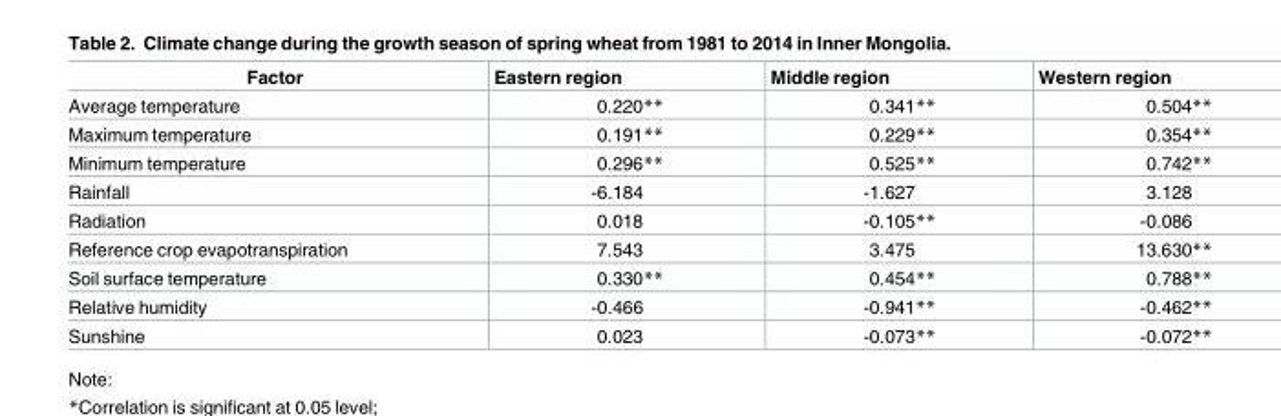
<table><thead><tr><td>Factor</td><td>Eastern region</td><td>Middle region</td><td>Western region</td></tr></thead><tbody><tr><td>Average temperature</td><td>0.220**</td><td>0.341**</td><td>0.504**</td></tr><tr><td>Maximum temperature</td><td>0.191**</td><td>0.229**</td><td>0.354**</td></tr><tr><td>Minimum temperature</td><td>0.296**</td><td>0.525**</td><td>0.742**</td></tr><tr><td>Rainfall</td><td>-6.184</td><td>-1.627</td><td>3.128</td></tr><tr><td>Radiation</td><td>0.018</td><td>-0.105**</td><td>-0.086</td></tr><tr><td>Reference crop evapotranspiration</td><td>7.543</td><td>3.475</td><td>13.630**</td></tr><tr><td>Soil surface temperature</td><td>0.330**</td><td>0.454**</td><td>0.788**</td></tr><tr><td>Relative humidity</td><td>-0.466</td><td>-0.941**</td><td>-0.462**</td></tr><tr><td>Sunshine</td><td>0.023</td><td>-0.073**</td><td>-0.072**</td></tr></tbody></table>